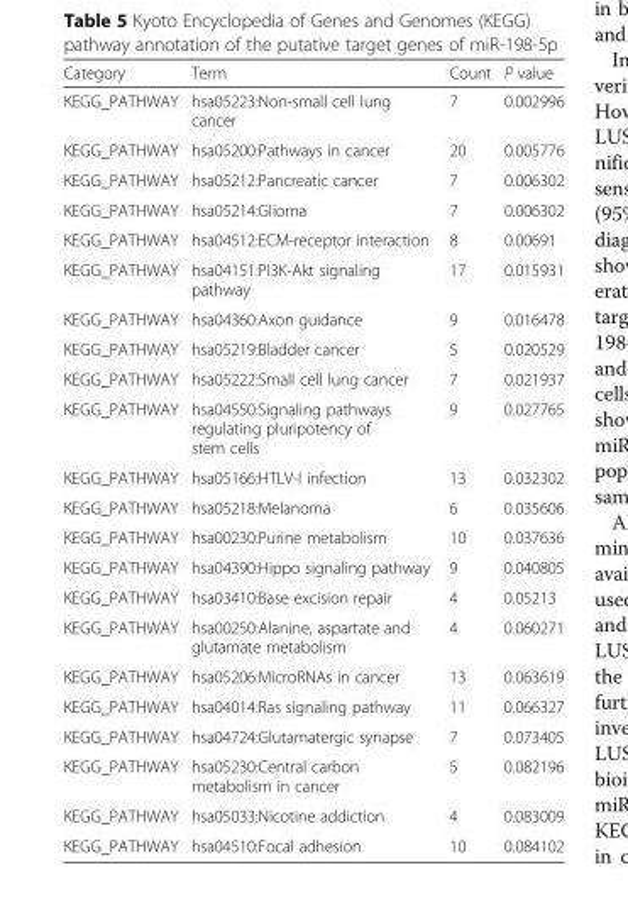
<table><thead><tr><td>Category</td><td>Term</td><td>Count</td><td>P value</td></tr></thead><tbody><tr><td>KEGG_PATHWAY</td><td>hsa05223:Non-small cell lung cancer</td><td>7</td><td>0.002996</td></tr><tr><td>KEGG_PATHWAY</td><td>hsa05200:Pathways in cancer</td><td>20</td><td>0.005776</td></tr><tr><td>KEGG_PATHWAY</td><td>hsa05212:Pancreatic cancer</td><td>7</td><td>0.006302</td></tr><tr><td>KEGG_PATHWAY</td><td>hsa05214:Glioma</td><td>7</td><td>0.006302</td></tr><tr><td>KEGG_PATHWAY</td><td>hsa04512:ECM-receptor interaction</td><td>8</td><td>0.00691</td></tr><tr><td>KEGG_PATHWAY</td><td>hsa04151:PI3K-Akt signaling pathway</td><td>17</td><td>0.015931</td></tr><tr><td>KEGG_PATHWAY</td><td>hsa04360:Axon guidance</td><td>9</td><td>0.016478</td></tr><tr><td>KEGG_PATHWAY</td><td>hsa05219:Bladder cancer</td><td>5</td><td>0.020529</td></tr><tr><td>KEGG_PATHWAY</td><td>hsa05222:Small cell lung cancer</td><td>7</td><td>0.021937</td></tr><tr><td>KEGG_PATHWAY</td><td>hsa04550:Signaling pathways regulating pluripotency of stem cells</td><td>9</td><td>0.027765</td></tr><tr><td>KEGG_PATHWAY</td><td>hsa05166:HTLV-I infection</td><td>13</td><td>0.032302</td></tr><tr><td>KEGG_PATHWAY</td><td>hsa05218:Melanoma</td><td>6</td><td>0.035606</td></tr><tr><td>KEGG_PATHWAY</td><td>hsa00230:Purine metabolism</td><td>10</td><td>0.037636</td></tr><tr><td>KEGG_PATHWAY</td><td>hsa04390:Hippo signaling pathway</td><td>9</td><td>0.040805</td></tr><tr><td>KEGG_PATHWAY</td><td>hsa03410:Base excision repair</td><td>4</td><td>0.05213</td></tr><tr><td>KEGG_PATHWAY</td><td>hsa00250:Alanine, aspartate and glutamate metabolism</td><td>4</td><td>0.060271</td></tr><tr><td>KEGG_PATHWAY</td><td>hsa05206:MicroRNAs in cancer</td><td>13</td><td>0.063619</td></tr><tr><td>KEGG_PATHWAY</td><td>hsa04014:Ras signaling pathway</td><td>11</td><td>0.066327</td></tr><tr><td>KEGG_PATHWAY</td><td>hsa04724:Glutamatergic synapse</td><td>7</td><td>0.073405</td></tr><tr><td>KEGG_PATHWAY</td><td>hsa05230:Central carbon metabolism in cancer</td><td>5</td><td>0.082196</td></tr><tr><td>KEGG_PATHWAY</td><td>hsa05033:Nicotine addiction</td><td>4</td><td>0.083009</td></tr><tr><td>KEGG_PATHWAY</td><td>hsa04510:Focal adhesion</td><td>10</td><td>0.084102</td></tr></tbody></table>